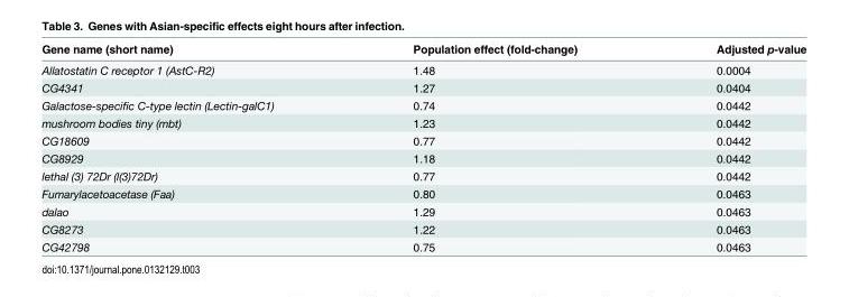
<table><thead><tr><td>Gene name (short name)</td><td>Population effect (fold-change)</td><td>Adjusted p-value</td></tr></thead><tbody><tr><td>Allatostatin C receptor 1 (AstC-R2)</td><td>1.48</td><td>0.0004</td></tr><tr><td>CG4341</td><td>1.27</td><td>0.0404</td></tr><tr><td>Galactose-specific C-type lectin (Lectin-galC1)</td><td>0.74</td><td>0.0442</td></tr><tr><td>mushroom bodies tiny (mbt)</td><td>1.23</td><td>0.0442</td></tr><tr><td>CG18609</td><td>0.77</td><td>0.0442</td></tr><tr><td>CG8929</td><td>1.18</td><td>0.0442</td></tr><tr><td>lethal (3) 72Dr (l(3)72Dr)</td><td>0.77</td><td>0.0442</td></tr><tr><td>Fumarylacetoacetase (Faa)</td><td>0.80</td><td>0.0463</td></tr><tr><td>dalao</td><td>1.29</td><td>0.0463</td></tr><tr><td>CG8273</td><td>1.22</td><td>0.0463</td></tr><tr><td>CG42798</td><td>0.75</td><td>0.0463</td></tr></tbody></table>